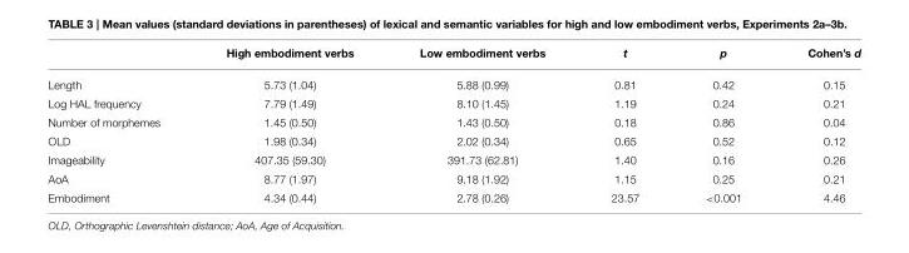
<table><thead><tr><td></td><td>High embodiment verbs</td><td>Low embodiment verbs</td><td>t</td><td>p</td><td>Cohen’s d</td></tr></thead><tbody><tr><td>Length</td><td>5.73 (1.04)</td><td>5.88 (0.99)</td><td>0.81</td><td>0.42</td><td>0.15</td></tr><tr><td>Log HAL frequency</td><td>7.79 (1.49)</td><td>8.10 (1.45)</td><td>1.19</td><td>0.24</td><td>0.21</td></tr><tr><td>Number of morphemes</td><td>1.45 (0.50)</td><td>1.43 (0.50)</td><td>0.18</td><td>0.86</td><td>0.04</td></tr><tr><td>OLD</td><td>1.98 (0.34)</td><td>2.02 (0.34)</td><td>0.65</td><td>0.52</td><td>0.12</td></tr><tr><td>Imageability</td><td>407.35 (59.30)</td><td>391.73 (62.81)</td><td>1.40</td><td>0.16</td><td>0.26</td></tr><tr><td>AoA</td><td>8.77 (1.97)</td><td>9.18 (1.92)</td><td>1.15</td><td>0.25</td><td>0.21</td></tr><tr><td>Embodiment</td><td>4.34 (0.44)</td><td>2.78 (0.26)</td><td>23.57</td><td>&lt;0.001</td><td>4.46</td></tr></tbody></table>